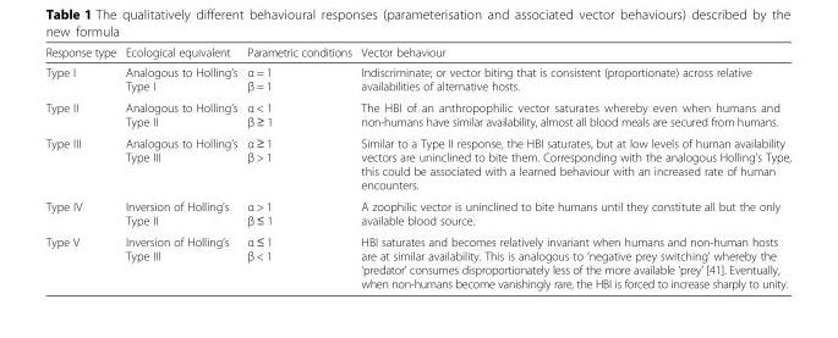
<table><thead><tr><td>Response type</td><td>Ecological equivalent</td><td>Parametric conditions</td><td>Vector behaviour</td></tr></thead><tbody><tr><td>Type I</td><td>Analogous to Holling’s Type I</td><td>α = 1 β = 1</td><td>Indiscriminate; or vector biting that is consistent (proportionate) across relative availabilities of alternative hosts.</td></tr><tr><td>Type II</td><td>Analogous to Holling’s Type II</td><td>α &lt; 1 β ≥ 1</td><td>The HBI of an anthropophilic vector saturates whereby even when humans and non-humans have similar availability, almost all blood meals are secured from humans.</td></tr><tr><td>Type III</td><td>Analogous to Holling’s Type III</td><td>α ≥ 1 β &gt; 1</td><td>Similar to a Type II response, the HBI saturates, but at low levels of human availability vectors are uninclined to bite them. Corresponding with the analogous Holling’s Type, this could be associated with a learned behaviour with an increased rate of human encounters.</td></tr><tr><td>Type IV</td><td>Inversion of Holling’s Type II</td><td>α &gt; 1 β ≤ 1</td><td>A zoophilic vector is uninclined to bite humans until they constitute all but the only available blood source.</td></tr><tr><td>Type V</td><td>Inversion of Holling’s Type III</td><td>α ≤ 1 β &lt; 1</td><td>HBI saturates and becomes relatively invariant when humans and non-human hosts are at similar availability. This is analogous to ‘negative prey switching’ whereby the ‘predator’ consumes disproportionately less of the more available ‘prey’ [41]. Eventually, when non-humans become vanishingly rare, the HBI is forced to increase sharply to unity.</td></tr></tbody></table>